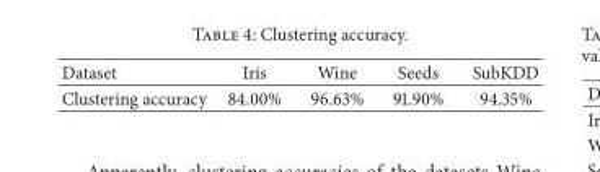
<table><thead><tr><td>Dataset</td><td>Iris</td><td>Wine</td><td>Seeds</td><td>SubKDD</td></tr></thead><tbody><tr><td>Clustering accuracy</td><td>84.00%</td><td>96.63%</td><td>91.90%</td><td>94.35%</td></tr></tbody></table>